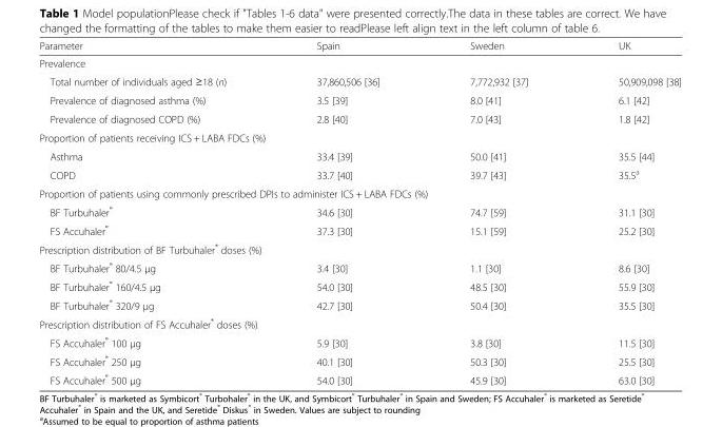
<table><thead><tr><td>Parameter</td><td>Spain</td><td>Sweden</td><td>UK</td></tr></thead><tbody><tr><td colspan="4">Prevalence</td></tr><tr><td>Total number of individuals aged ≥18 (n)</td><td>37,860,506 [36]</td><td>7,772,932 [37]</td><td>50,909,098 [38]</td></tr><tr><td>Prevalence of diagnosed asthma (%)</td><td>3.5 [39]</td><td>8.0 [41]</td><td>6.1 [42]</td></tr><tr><td>Prevalence of diagnosed COPD (%)</td><td>2.8 [40]</td><td>7.0 [43]</td><td>1.8 [42]</td></tr><tr><td colspan="4">Proportion of patients receiving ICS + LABA FDCs (%)</td></tr><tr><td>Asthma</td><td>33.4 [39]</td><td>50.0 [41]</td><td>35.5 [44]</td></tr><tr><td>COPD</td><td>33.7 [40]</td><td>39.7 [43]</td><td>35.5<sup>a</sup></td></tr><tr><td colspan="4">Proportion of patients using commonly prescribed DPIs to administer ICS + LABA FDCs (%)</td></tr><tr><td>BF Turbuhaler<sup>®</sup></td><td>34.6 [30]</td><td>74.7 [59]</td><td>31.1 [30]</td></tr><tr><td>FS Accuhaler<sup>®</sup></td><td>37.3 [30]</td><td>15.1 [59]</td><td>25.2 [30]</td></tr><tr><td colspan="4">Prescription distribution of BF Turbuhaler<sup>®</sup> doses (%)</td></tr><tr><td>BF Turbuhaler<sup>®</sup> 80/4.5 μg</td><td>3.4 [30]</td><td>1.1 [30]</td><td>8.6 [30]</td></tr><tr><td>BF Turbuhaler<sup>®</sup> 160/4.5 μg</td><td>54.0 [30]</td><td>48.5 [30]</td><td>55.9 [30]</td></tr><tr><td>BF Turbuhaler<sup>®</sup> 320/9 μg</td><td>42.7 [30]</td><td>50.4 [30]</td><td>35.5 [30]</td></tr><tr><td colspan="4">Prescription distribution of FS Accuhaler<sup>®</sup> doses (%)</td></tr><tr><td>FS Accuhaler<sup>®</sup> 100 μg</td><td>5.9 [30]</td><td>3.8 [30]</td><td>11.5 [30]</td></tr><tr><td>FS Accuhaler<sup>®</sup> 250 μg</td><td>40.1 [30]</td><td>50.3 [30]</td><td>25.5 [30]</td></tr><tr><td>FS Accuhaler<sup>®</sup> 500 μg</td><td>54.0 [30]</td><td>45.9 [30]</td><td>63.0 [30]</td></tr></tbody></table>